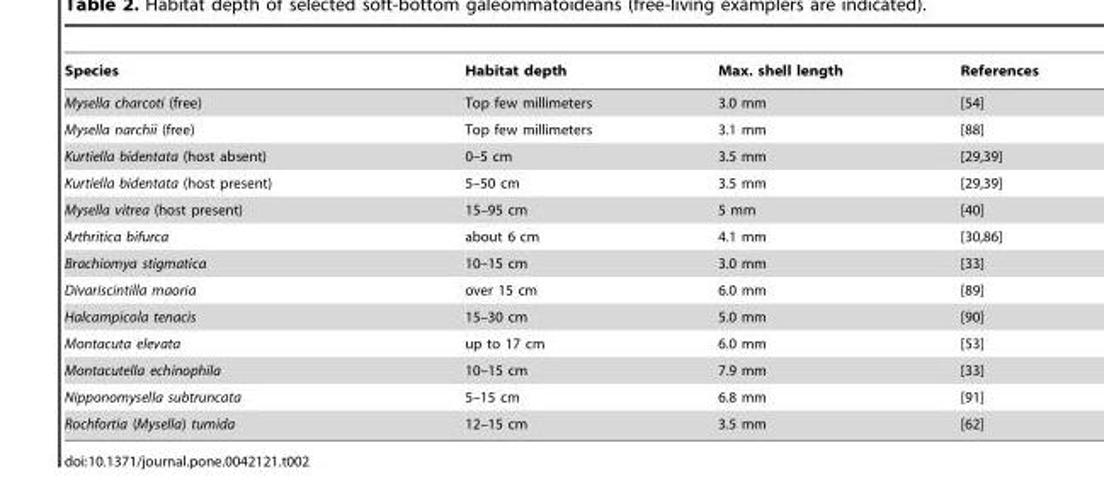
<table><thead><tr><td>Species</td><td>Habitat depth</td><td>Max. shell length</td><td>References</td></tr></thead><tbody><tr><td>Mysella charcoti (free)</td><td>Top few millimeters</td><td>3.0 mm</td><td>[54]</td></tr><tr><td>Mysella narchii (free)</td><td>Top few millimeters</td><td>3.1 mm</td><td>[88]</td></tr><tr><td>Kurtiella bidentata (host absent)</td><td>0–5 cm</td><td>3.5 mm</td><td>[29,39]</td></tr><tr><td>Kurtiella bidentata (host present)</td><td>5–50 cm</td><td>3.5 mm</td><td>[29,39]</td></tr><tr><td>Mysella vitrea (host present)</td><td>15–95 cm</td><td>5 mm</td><td>[40]</td></tr><tr><td>Arthritica bifurca</td><td>about 6 cm</td><td>4.1 mm</td><td>[30,86]</td></tr><tr><td>Brachiomya stigmatica</td><td>10–15 cm</td><td>3.0 mm</td><td>[33]</td></tr><tr><td>Divariscintilla maoria</td><td>over 15 cm</td><td>6.0 mm</td><td>[89]</td></tr><tr><td>Halcampicola tenacis</td><td>15–30 cm</td><td>5.0 mm</td><td>[90]</td></tr><tr><td>Montacuta elevata</td><td>up to 17 cm</td><td>6.0 mm</td><td>[53]</td></tr><tr><td>Montacutella echinophila</td><td>10–15 cm</td><td>7.9 mm</td><td>[33]</td></tr><tr><td>Nipponomysella subtruncata</td><td>5–15 cm</td><td>6.8 mm</td><td>[91]</td></tr><tr><td>Rochfortia (Mysella) tumida</td><td>12–15 cm</td><td>3.5 mm</td><td>[62]</td></tr></tbody></table>